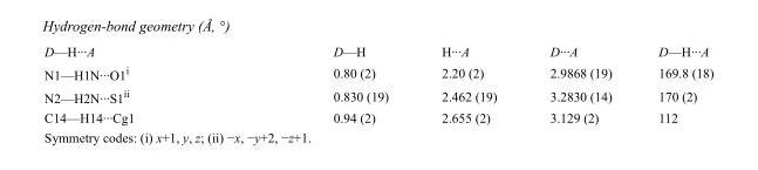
<table><tbody><tr><td>D—H···A</td><td>D—H</td><td>H···A</td><td>D···A</td><td>D—H···A</td></tr><tr><td>N1—H1N···O1<sup>i</sup></td><td>0.80 (2)</td><td>2.20 (2)</td><td>2.9868 (19)</td><td>169.8 (18)</td></tr><tr><td>N2—H2N···S1<sup>ii</sup></td><td>0.830 (19)</td><td>2.462 (19)</td><td>3.2830 (14)</td><td>170 (2)</td></tr><tr><td>C14—H14···Cg1</td><td>0.94 (2)</td><td>2.655 (2)</td><td>3.129 (2)</td><td>112</td></tr></tbody></table>